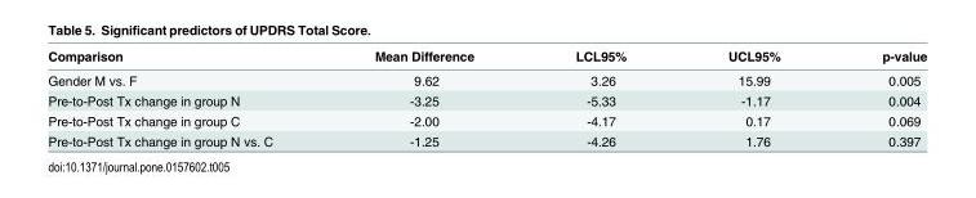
<table><thead><tr><td>Comparison</td><td>Mean Difference</td><td>LCL95%</td><td>UCL95%</td><td>p-value</td></tr></thead><tbody><tr><td>Gender M vs. F</td><td>9.62</td><td>3.26</td><td>15.99</td><td>0.005</td></tr><tr><td>Pre-to-Post Tx change in group N</td><td>-3.25</td><td>-5.33</td><td>-1.17</td><td>0.004</td></tr><tr><td>Pre-to-Post Tx change in group C</td><td>-2.00</td><td>-4.17</td><td>0.17</td><td>0.069</td></tr><tr><td>Pre-to-Post Tx change in group N vs. C</td><td>-1.25</td><td>-4.26</td><td>1.76</td><td>0.397</td></tr></tbody></table>